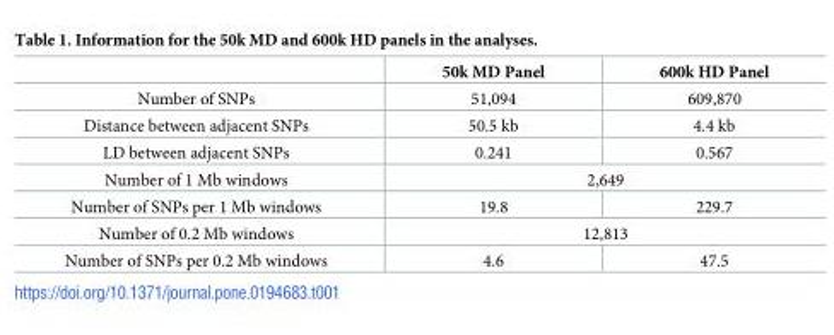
<table><thead><tr><td></td><td>50k MD Panel</td><td>600k HD Panel</td></tr></thead><tbody><tr><td>Number of SNPs</td><td>51,094</td><td>609,870</td></tr><tr><td>Distance between adjacent SNPs</td><td>50.5 kb</td><td>4.4 kb</td></tr><tr><td>LD between adjacent SNPs</td><td>0.241</td><td>0.567</td></tr><tr><td>Number of 1 Mb windows</td><td colspan="2">2,649</td></tr><tr><td>Number of SNPs per 1 Mb windows</td><td>19.8</td><td>229.7</td></tr><tr><td>Number of 0.2 Mb windows</td><td colspan="2">12,813</td></tr><tr><td>Number of SNPs per 0.2 Mb windows</td><td>4.6</td><td>47.5</td></tr></tbody></table>